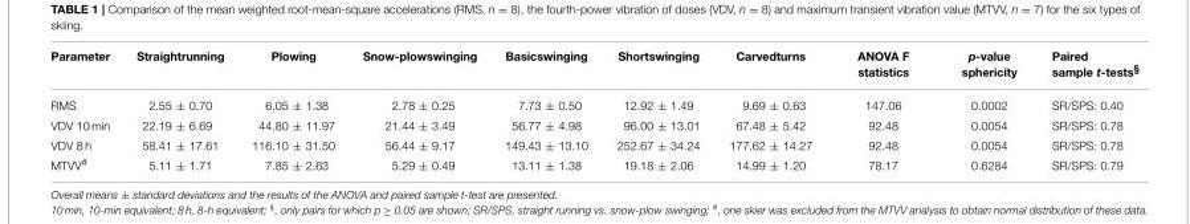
<table><thead><tr><td>Parameter</td><td>Straightrunning</td><td>Plowing</td><td>Snow-plowswinging</td><td>Basicswinging</td><td>Shortswinging</td><td>Carvedturns</td><td>ANOVA F statistics</td><td>p-value sphericity</td><td>Paired sample t-tests<sup>§</sup></td></tr></thead><tbody><tr><td>RMS</td><td>2.55 ± 0.70</td><td>6.05 ± 1.38</td><td>2.78 ± 0.25</td><td>7.73 ± 0.50</td><td>12.92 ± 1.49</td><td>9.69 ± 0.63</td><td>147.06</td><td>0.0002</td><td>SR/SPS: 0.40</td></tr><tr><td>VDV 10 min</td><td>22.19 ± 6.69</td><td>44.80 ± 11.97</td><td>21.44 ± 3.49</td><td>56.77 ± 4.98</td><td>96.00 ± 13.01</td><td>67.48 ± 5.42</td><td>92.48</td><td>0.0054</td><td>SR/SPS: 0.78</td></tr><tr><td>VDV 8 h</td><td>58.41 ± 17.61</td><td>116.10 ± 31.50</td><td>56.44 ± 9.17</td><td>149.43 ± 13.10</td><td>252.67 ± 34.24</td><td>177.62 ± 14.27</td><td>92.48</td><td>0.0054</td><td>SR/SPS: 0.78</td></tr><tr><td>MTVV<sup>#</sup></td><td>5.11 ± 1.71</td><td>7.85 ± 2.63</td><td>5.29 ± 0.49</td><td>13.11 ± 1.38</td><td>19.18 ± 2.06</td><td>14.99 ± 1.20</td><td>78.17</td><td>0.6284</td><td>SR/SPS: 0.79</td></tr></tbody></table>